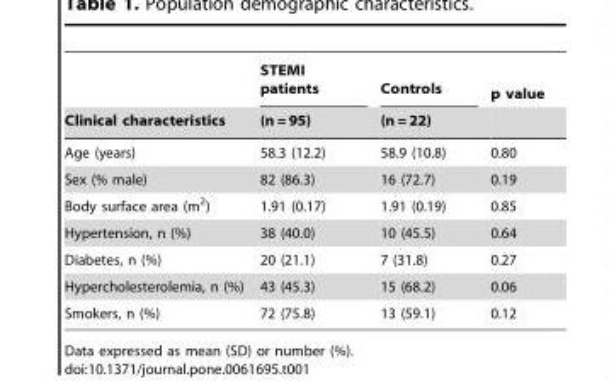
<table><thead><tr><td rowspan="2">Clinical characteristics</td><td rowspan="2">STEMI patients (n = 95)</td><td rowspan="2">Controls (n = 22)</td><td rowspan="2">p value</td></tr><tr></tr></thead><tbody><tr><td>Age (years)</td><td>58.3 (12.2)</td><td>58.9 (10.8)</td><td>0.80</td></tr><tr><td>Sex (% male)</td><td>82 (86.3)</td><td>16 (72.7)</td><td>0.19</td></tr><tr><td>Body surface area (m<sup>2</sup>)</td><td>1.91 (0.17)</td><td>1.91 (0.19)</td><td>0.85</td></tr><tr><td>Hypertension, n (%)</td><td>38 (40.0)</td><td>10 (45.5)</td><td>0.64</td></tr><tr><td>Diabetes, n (%)</td><td>20 (21.1)</td><td>7 (31.8)</td><td>0.27</td></tr><tr><td>Hypercholesterolemia, n (%)</td><td>43 (45.3)</td><td>15 (68.2)</td><td>0.06</td></tr><tr><td>Smokers, n (%)</td><td>72 (75.8)</td><td>13 (59.1)</td><td>0.12</td></tr></tbody></table>